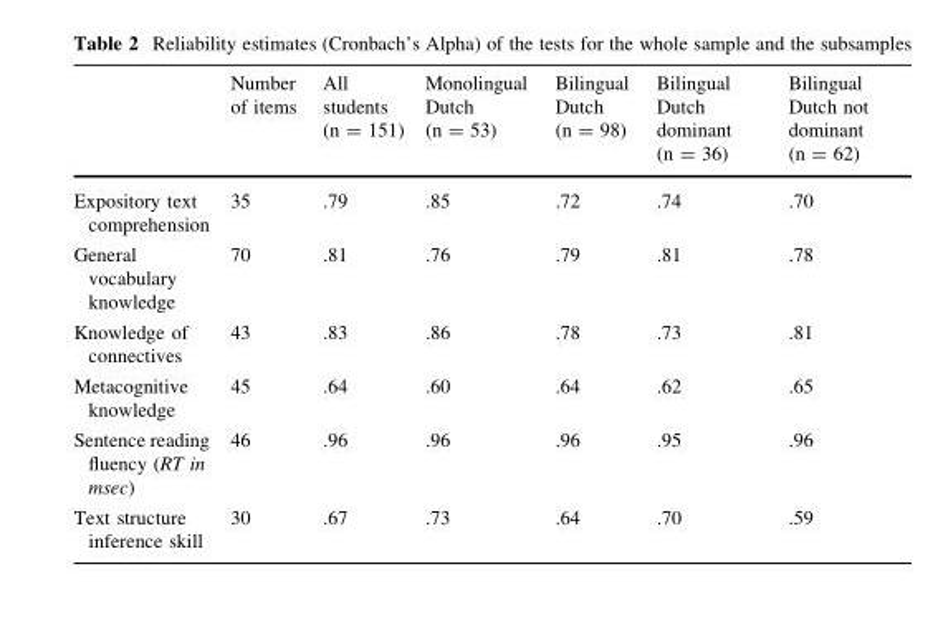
<table><thead><tr><td></td><td>Number of items</td><td>All students (n = 151)</td><td>Monolingual Dutch (n = 53)</td><td>Bilingual Dutch (n = 98)</td><td>Bilingual Dutch dominant (n = 36)</td><td>Bilingual Dutch not dominant (n = 62)</td></tr></thead><tbody><tr><td>Expository text comprehension</td><td>35</td><td>.79</td><td>.85</td><td>.72</td><td>.74</td><td>.70</td></tr><tr><td>General vocabulary knowledge</td><td>70</td><td>.81</td><td>.76</td><td>.79</td><td>.81</td><td>.78</td></tr><tr><td>Knowledge of connectives</td><td>43</td><td>.83</td><td>.86</td><td>.78</td><td>.73</td><td>.81</td></tr><tr><td>Metacognitive knowledge</td><td>45</td><td>.64</td><td>.60</td><td>.64</td><td>.62</td><td>.65</td></tr><tr><td>Sentence reading fluency (RT in msec)</td><td>46</td><td>.96</td><td>.96</td><td>.96</td><td>.95</td><td>.96</td></tr><tr><td>Text structure inference skill</td><td>30</td><td>.67</td><td>.73</td><td>.64</td><td>.70</td><td>.59</td></tr></tbody></table>